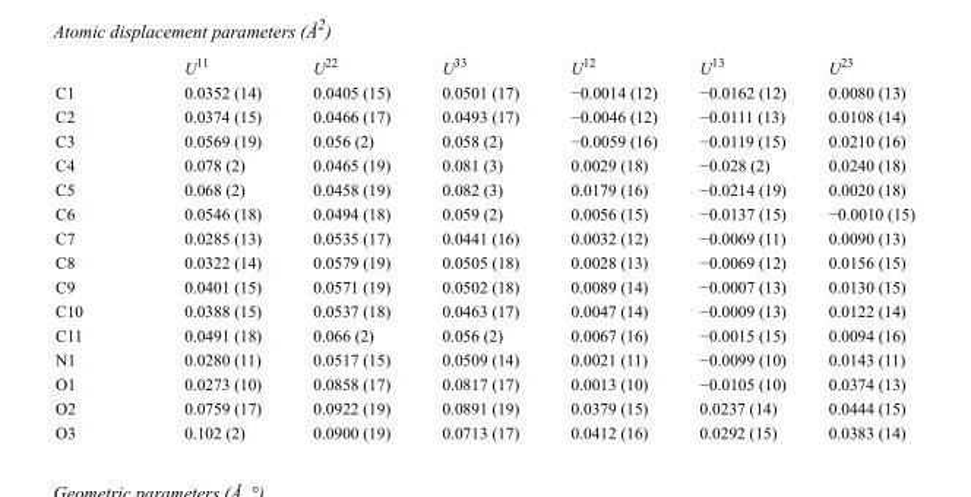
<table><thead><tr><td></td><td>U<sup>11</sup></td><td>U<sup>22</sup></td><td>U<sup>33</sup></td><td>U<sup>12</sup></td><td>U<sup>13</sup></td><td>U<sup>23</sup></td></tr></thead><tbody><tr><td>C1</td><td>0.0352 (14)</td><td>0.0405 (15)</td><td>0.0501 (17)</td><td>−0.0014 (12)</td><td>−0.0162 (12)</td><td>0.0080 (13)</td></tr><tr><td>C2</td><td>0.0374 (15)</td><td>0.0466 (17)</td><td>0.0493 (17)</td><td>−0.0046 (12)</td><td>−0.0111 (13)</td><td>0.0108 (14)</td></tr><tr><td>C3</td><td>0.0569 (19)</td><td>0.056 (2)</td><td>0.058 (2)</td><td>−0.0059 (16)</td><td>−0.0119 (15)</td><td>0.0210 (16)</td></tr><tr><td>C4</td><td>0.078 (2)</td><td>0.0465 (19)</td><td>0.081 (3)</td><td>0.0029 (18)</td><td>−0.028 (2)</td><td>0.0240 (18)</td></tr><tr><td>C5</td><td>0.068 (2)</td><td>0.0458 (19)</td><td>0.082 (3)</td><td>0.0179 (16)</td><td>−0.0214 (19)</td><td>0.0020 (18)</td></tr><tr><td>C6</td><td>0.0546 (18)</td><td>0.0494 (18)</td><td>0.059 (2)</td><td>0.0056 (15)</td><td>−0.0137 (15)</td><td>−0.0010 (15)</td></tr><tr><td>C7</td><td>0.0285 (13)</td><td>0.0535 (17)</td><td>0.0441 (16)</td><td>0.0032 (12)</td><td>−0.0069 (11)</td><td>0.0090 (13)</td></tr><tr><td>C8</td><td>0.0322 (14)</td><td>0.0579 (19)</td><td>0.0505 (18)</td><td>0.0028 (13)</td><td>−0.0069 (12)</td><td>0.0156 (15)</td></tr><tr><td>C9</td><td>0.0401 (15)</td><td>0.0571 (19)</td><td>0.0502 (18)</td><td>0.0089 (14)</td><td>−0.0007 (13)</td><td>0.0130 (15)</td></tr><tr><td>C10</td><td>0.0388 (15)</td><td>0.0537 (18)</td><td>0.0463 (17)</td><td>0.0047 (14)</td><td>−0.0009 (13)</td><td>0.0122 (14)</td></tr><tr><td>C11</td><td>0.0491 (18)</td><td>0.066 (2)</td><td>0.056 (2)</td><td>0.0067 (16)</td><td>−0.0015 (15)</td><td>0.0094 (16)</td></tr><tr><td>N1</td><td>0.0280 (11)</td><td>0.0517 (15)</td><td>0.0509 (14)</td><td>0.0021 (11)</td><td>−0.0099 (10)</td><td>0.0143 (11)</td></tr><tr><td>O1</td><td>0.0273 (10)</td><td>0.0858 (17)</td><td>0.0817 (17)</td><td>0.0013 (10)</td><td>−0.0105 (10)</td><td>0.0374 (13)</td></tr><tr><td>O2</td><td>0.0759 (17)</td><td>0.0922 (19)</td><td>0.0891 (19)</td><td>0.0379 (15)</td><td>0.0237 (14)</td><td>0.0444 (15)</td></tr><tr><td>O3</td><td>0.102 (2)</td><td>0.0900 (19)</td><td>0.0713 (17)</td><td>0.0412 (16)</td><td>0.0292 (15)</td><td>0.0383 (14)</td></tr></tbody></table>